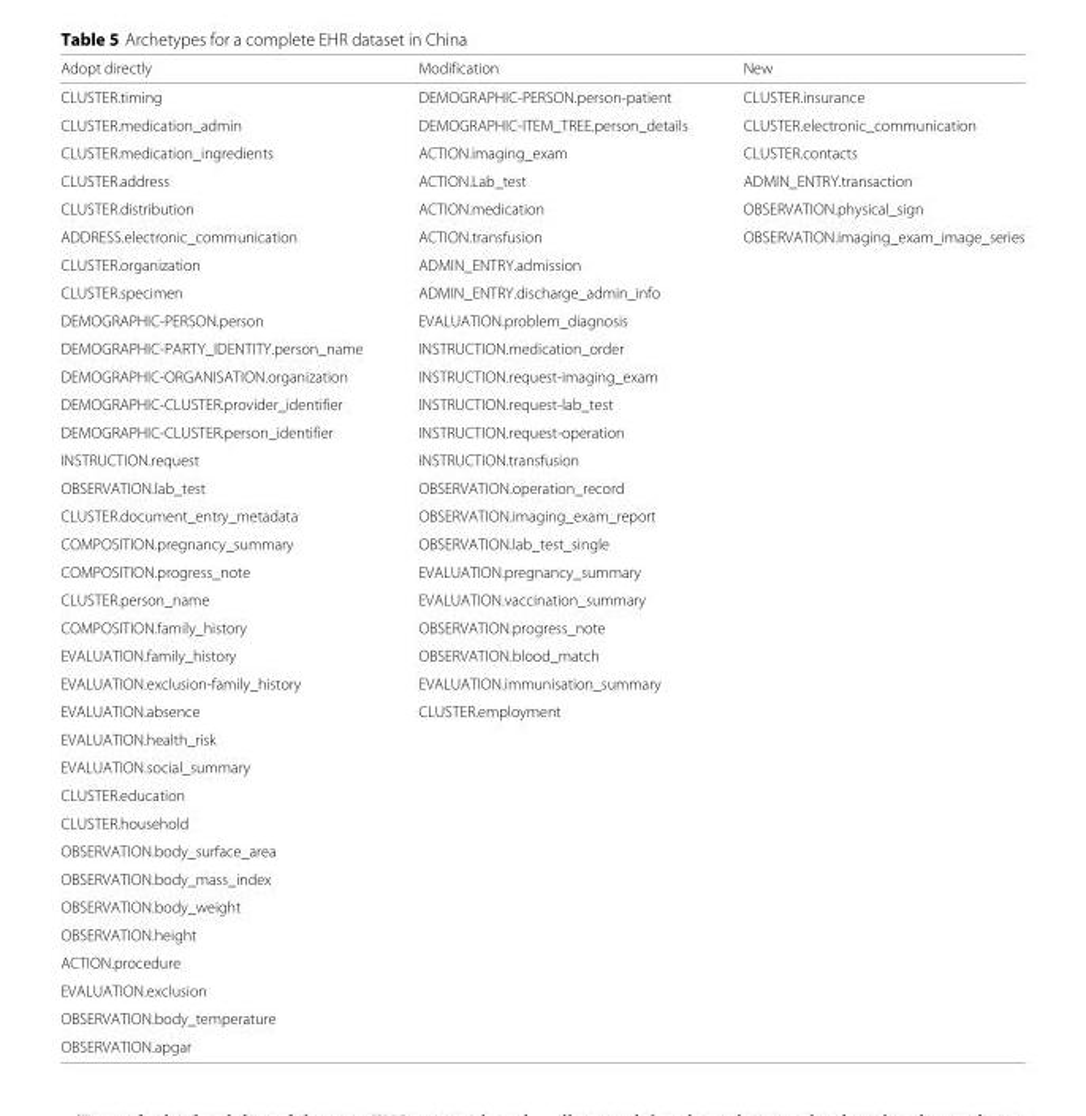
<table><thead><tr><td>Adopt directly</td><td>Modification</td><td>New</td></tr></thead><tbody><tr><td>CLUSTER.timing</td><td>DEMOGRAPHIC-PERSON.person-patient</td><td>CLUSTER.insurance</td></tr><tr><td>CLUSTER.medication_admin</td><td>DEMOGRAPHIC-ITEM_TREE.person_details</td><td>CLUSTER.electronic_communication</td></tr><tr><td>CLUSTER.medication_ingredients</td><td>ACTION.imaging_exam</td><td>CLUSTER.contacts</td></tr><tr><td>CLUSTER.address</td><td>ACTION.Lab_test</td><td>ADMIN_ENTRY.transaction</td></tr><tr><td>CLUSTER.distribution</td><td>ACTION.medication</td><td>OBSERVATION.physical_sign</td></tr><tr><td>ADDRESS.electronic_communication</td><td>ACTION.transfusion</td><td>OBSERVATION.imaging_exam_image_series</td></tr><tr><td>CLUSTER.organization</td><td>ADMIN_ENTRY.admission</td><td></td></tr><tr><td>CLUSTER.specimen</td><td>ADMIN_ENTRY.discharge_admin_info</td><td></td></tr><tr><td>DEMOGRAPHIC-PERSON.person</td><td>EVALUATION.problem_diagnosis</td><td></td></tr><tr><td>DEMOGRAPHIC-PARTY_IDENTITY.person_name</td><td>INSTRUCTION.medication_order</td><td></td></tr><tr><td>DEMOGRAPHIC-ORGANISATION.organization</td><td>INSTRUCTION.request-imaging_exam</td><td></td></tr><tr><td>DEMOGRAPHIC-CLUSTER.provider_identifier</td><td>INSTRUCTION.request-lab_test</td><td></td></tr><tr><td>DEMOGRAPHIC-CLUSTER.person_identifier</td><td>INSTRUCTION.request-operation</td><td></td></tr><tr><td>INSTRUCTION.request</td><td>INSTRUCTION.transfusion</td><td></td></tr><tr><td>OBSERVATION.lab_test</td><td>OBSERVATION.operation_record</td><td></td></tr><tr><td>CLUSTER.document_entry_metadata</td><td>OBSERVATION.imaging_exam_report</td><td></td></tr><tr><td>COMPOSITION.pregnancy_summary</td><td>OBSERVATION.lab_test_single</td><td></td></tr><tr><td>COMPOSITION.progress_note</td><td>EVALUATION.pregnancy_summary</td><td></td></tr><tr><td>CLUSTER.person_name</td><td>EVALUATION.vaccination_summary</td><td></td></tr><tr><td>COMPOSITION.family_history</td><td>OBSERVATION.progress_note</td><td></td></tr><tr><td>EVALUATION.family_history</td><td>OBSERVATION.blood_match</td><td></td></tr><tr><td>EVALUATION.exclusion-family_history</td><td>EVALUATION.immunisation_summary</td><td></td></tr><tr><td>EVALUATION.absence</td><td>CLUSTER.employment</td><td></td></tr><tr><td colspan="3">EVALUATION.health_risk</td></tr><tr><td colspan="3">EVALUATION.social_summary</td></tr><tr><td colspan="3">CLUSTER.education</td></tr><tr><td colspan="3">CLUSTER.household</td></tr><tr><td colspan="3">OBSERVATION.body_surface_area</td></tr><tr><td colspan="3">OBSERVATION.body_mass_index</td></tr><tr><td colspan="3">OBSERVATION.body_weight</td></tr><tr><td colspan="3">OBSERVATION.height</td></tr><tr><td colspan="3">ACTION.procedure</td></tr><tr><td colspan="3">EVALUATION.exclusion</td></tr><tr><td colspan="3">OBSERVATION.body_temperature</td></tr><tr><td>OBSERVATION.apgar</td><td></td><td></td></tr></tbody></table>